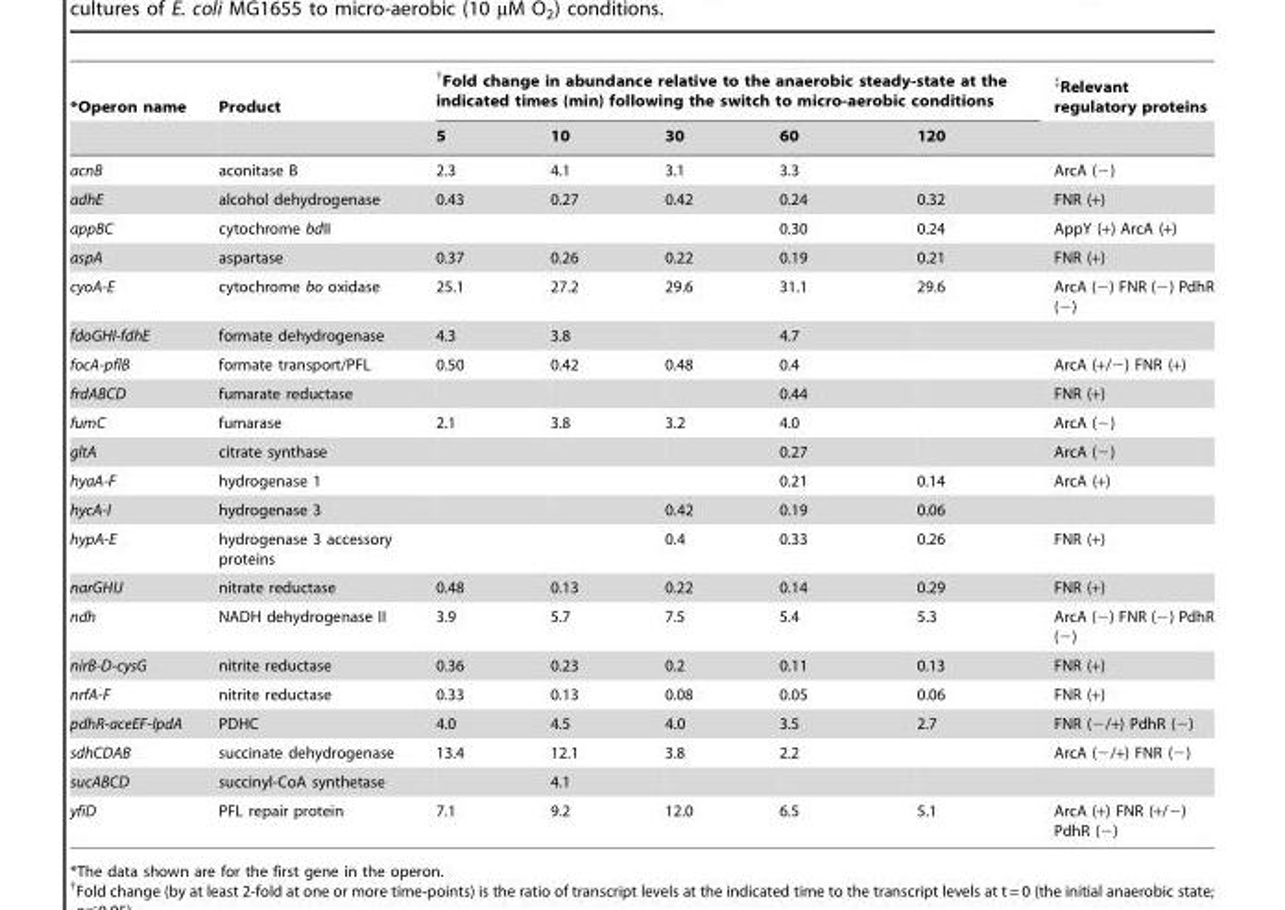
<table><thead><tr><td rowspan="2">*Operon name</td><td rowspan="2">Product</td><td colspan="5">†Fold change in abundance relative to the anaerobic steady-state at the indicated times (min) following the switch to micro-aerobic conditions</td><td rowspan="2">‡Relevant regulatory proteins</td></tr><tr><td>5</td><td>10</td><td>30</td><td>60</td><td>120</td></tr></thead><tbody><tr><td>acnB</td><td>aconitase B</td><td>2.3</td><td>4.1</td><td>3.1</td><td>3.3</td><td></td><td>ArcA (−)</td></tr><tr><td>adhE</td><td>alcohol dehydrogenase</td><td>0.43</td><td>0.27</td><td>0.42</td><td>0.24</td><td>0.32</td><td>FNR (+)</td></tr><tr><td>appBC</td><td>cytochrome bdII</td><td></td><td></td><td></td><td>0.30</td><td>0.24</td><td>AppY (+) ArcA (+)</td></tr><tr><td>aspA</td><td>aspartase</td><td>0.37</td><td>0.26</td><td>0.22</td><td>0.19</td><td>0.21</td><td>FNR (+)</td></tr><tr><td>cyoA-E</td><td>cytochrome bo oxidase</td><td>25.1</td><td>27.2</td><td>29.6</td><td>31.1</td><td>29.6</td><td>ArcA (−) FNR (−) PdhR (−)</td></tr><tr><td>fdoGHI-fdhE</td><td>formate dehydrogenase</td><td>4.3</td><td>3.8</td><td></td><td>4.7</td><td></td><td></td></tr><tr><td>focA-pflB</td><td>formate transport/PFL</td><td>0.50</td><td>0.42</td><td>0.48</td><td>0.4</td><td></td><td>ArcA (+/−) FNR (+)</td></tr><tr><td>frdABCD</td><td>fumarate reductase</td><td></td><td></td><td></td><td>0.44</td><td></td><td>FNR (+)</td></tr><tr><td>fumC</td><td>fumarase</td><td>2.1</td><td>3.8</td><td>3.2</td><td>4.0</td><td></td><td>ArcA (−)</td></tr><tr><td>gltA</td><td>citrate synthase</td><td></td><td></td><td></td><td>0.27</td><td></td><td>ArcA (−)</td></tr><tr><td>hyaA-F</td><td>hydrogenase 1</td><td></td><td></td><td></td><td>0.21</td><td>0.14</td><td>ArcA (+)</td></tr><tr><td>hycA-I</td><td>hydrogenase 3</td><td></td><td></td><td>0.42</td><td>0.19</td><td>0.06</td><td></td></tr><tr><td>hypA-E</td><td>hydrogenase 3 accessory proteins</td><td></td><td></td><td>0.4</td><td>0.33</td><td>0.26</td><td>FNR (+)</td></tr><tr><td>narGHIJ</td><td>nitrate reductase</td><td>0.48</td><td>0.13</td><td>0.22</td><td>0.14</td><td>0.29</td><td>FNR (+)</td></tr><tr><td>ndh</td><td>NADH dehydrogenase II</td><td>3.9</td><td>5.7</td><td>7.5</td><td>5.4</td><td>5.3</td><td>ArcA (−) FNR (−) PdhR (−)</td></tr><tr><td>nirB-D-cysG</td><td>nitrite reductase</td><td>0.36</td><td>0.23</td><td>0.2</td><td>0.11</td><td>0.13</td><td>FNR (+)</td></tr><tr><td>nrfA-F</td><td>nitrite reductase</td><td>0.33</td><td>0.13</td><td>0.08</td><td>0.05</td><td>0.06</td><td>FNR (+)</td></tr><tr><td>pdhR-aceEF-lpdA</td><td>PDHC</td><td>4.0</td><td>4.5</td><td>4.0</td><td>3.5</td><td>2.7</td><td>FNR (−/+) PdhR (−)</td></tr><tr><td>sdhCDAB</td><td>succinate dehydrogenase</td><td>13.4</td><td>12.1</td><td>3.8</td><td>2.2</td><td></td><td>ArcA (−/+) FNR (−)</td></tr><tr><td>sucABCD</td><td>succinyl-CoA synthetase</td><td></td><td>4.1</td><td></td><td></td><td></td><td></td></tr><tr><td>yfiD</td><td>PFL repair protein</td><td>7.1</td><td>9.2</td><td>12.0</td><td>6.5</td><td>5.1</td><td>ArcA (+) FNR (+/−) PdhR (−)</td></tr></tbody></table>